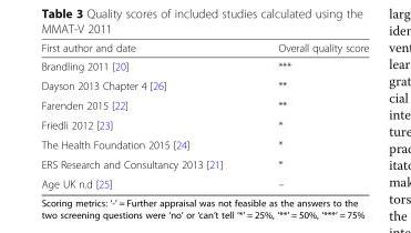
<table><thead><tr><td>First author and date</td><td>Overall quality score</td></tr></thead><tbody><tr><td>Brandling 2011 [20]</td><td>***</td></tr><tr><td>Dayson 2013 Chapter 4 [26]</td><td>**</td></tr><tr><td>Farenden 2015 [22]</td><td>**</td></tr><tr><td>Friedli 2012 [23]</td><td>*</td></tr><tr><td>The Health Foundation 2015 [24]</td><td>*</td></tr><tr><td>ERS Research and Consultancy 2013 [21]</td><td>*</td></tr><tr><td>Age UK n.d [25]</td><td>–</td></tr></tbody></table>